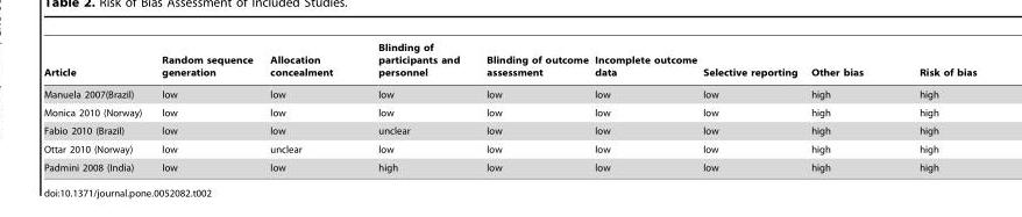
<table><thead><tr><td>Article</td><td>Random sequence generation</td><td>Allocation concealment</td><td>Blinding of participants and personnel</td><td>Blinding of outcome assessment</td><td>Incomplete outcome data</td><td>Selective reporting</td><td>Other bias</td><td>Risk of bias</td></tr></thead><tbody><tr><td>Manuela 2007(Brazil)</td><td>low</td><td>low</td><td>low</td><td>low</td><td>low</td><td>low</td><td>high</td><td>high</td></tr><tr><td>Monica 2010 (Norway)</td><td>low</td><td>low</td><td>low</td><td>low</td><td>low</td><td>low</td><td>high</td><td>high</td></tr><tr><td>Fabio 2010 (Brazil)</td><td>low</td><td>low</td><td>unclear</td><td>low</td><td>low</td><td>low</td><td>high</td><td>high</td></tr><tr><td>Ottar 2010 (Norway)</td><td>low</td><td>unclear</td><td>low</td><td>low</td><td>low</td><td>low</td><td>high</td><td>high</td></tr><tr><td>Padmini 2008 (India)</td><td>low</td><td>low</td><td>high</td><td>low</td><td>low</td><td>low</td><td>high</td><td>high</td></tr></tbody></table>